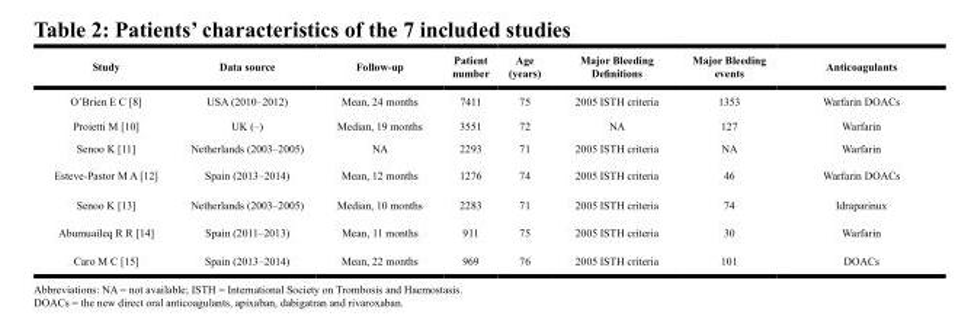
<table><thead><tr><td>Study</td><td>Data source</td><td>Follow-up</td><td>Patient number</td><td>Age (years)</td><td>Major Bleeding Definitions</td><td>Major Bleeding events</td><td>Anticoagulants</td></tr></thead><tbody><tr><td>O’Brien E C [8]</td><td>USA (2010–2012)</td><td>Mean, 24 months</td><td>7411</td><td>75</td><td>2005 ISTH criteria</td><td>1353</td><td>Warfarin DOACs</td></tr><tr><td>Proietti M [10]</td><td>UK (–)</td><td>Median, 19 months</td><td>3551</td><td>72</td><td>NA</td><td>127</td><td>Warfarin</td></tr><tr><td>Senoo K [11]</td><td>Netherlands (2003–2005)</td><td>NA</td><td>2293</td><td>71</td><td>2005 ISTH criteria</td><td>NA</td><td>Warfarin</td></tr><tr><td>Esteve-Pastor M A [12]</td><td>Spain (2013–2014)</td><td>Mean, 12 months</td><td>1276</td><td>74</td><td>2005 ISTH criteria</td><td>46</td><td>Warfarin DOACs</td></tr><tr><td>Senoo K [13]</td><td>Netherlands (2003–2005)</td><td>Median, 10 months</td><td>2283</td><td>71</td><td>2005 ISTH criteria</td><td>74</td><td>Idraparinux</td></tr><tr><td>Abumuaileq R R [14]</td><td>Spain (2011–2013)</td><td>Mean, 11 months</td><td>911</td><td>75</td><td>2005 ISTH criteria</td><td>30</td><td>Warfarin</td></tr><tr><td>Caro M C [15]</td><td>Spain (2013–2014)</td><td>Mean, 22 months</td><td>969</td><td>76</td><td>2005 ISTH criteria</td><td>101</td><td>DOACs</td></tr></tbody></table>